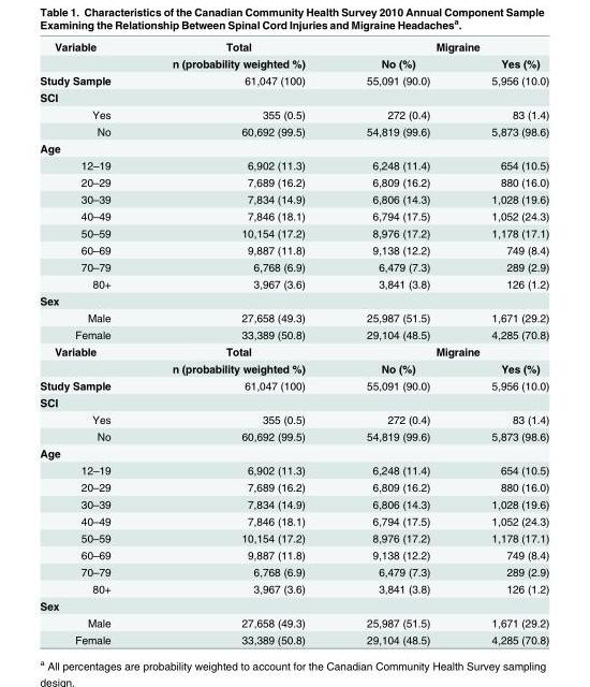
<table><tbody><tr><td rowspan="2">Variable</td><td>Total</td><td colspan="2">Migraine</td></tr><tr><td>n (probability weighted %)</td><td>No (%)</td><td>Yes (%)</td></tr><tr><td>Study Sample</td><td>61,047 (100)</td><td>55,091 (90.0)</td><td>5,956 (10.0)</td></tr><tr><td colspan="4">SCI</td></tr><tr><td>Yes</td><td>355 (0.5)</td><td>272 (0.4)</td><td>83 (1.4)</td></tr><tr><td>No</td><td>60,692 (99.5)</td><td>54,819 (99.6)</td><td>5,873 (98.6)</td></tr><tr><td colspan="4">Age</td></tr><tr><td>12–19</td><td>6,902 (11.3)</td><td>6,248 (11.4)</td><td>654 (10.5)</td></tr><tr><td>20–29</td><td>7,689 (16.2)</td><td>6,809 (16.2)</td><td>880 (16.0)</td></tr><tr><td>30–39</td><td>7,834 (14.9)</td><td>6,806 (14.3)</td><td>1,028 (19.6)</td></tr><tr><td>40–49</td><td>7,846 (18.1)</td><td>6,794 (17.5)</td><td>1,052 (24.3)</td></tr><tr><td>50–59</td><td>10,154 (17.2)</td><td>8,976 (17.2)</td><td>1,178 (17.1)</td></tr><tr><td>60–69</td><td>9,887 (11.8)</td><td>9,138 (12.2)</td><td>749 (8.4)</td></tr><tr><td>70–79</td><td>6,768 (6.9)</td><td>6,479 (7.3)</td><td>289 (2.9)</td></tr><tr><td>80+</td><td>3,967 (3.6)</td><td>3,841 (3.8)</td><td>126 (1.2)</td></tr><tr><td colspan="4">Sex</td></tr><tr><td>Male</td><td>27,658 (49.3)</td><td>25,987 (51.5)</td><td>1,671 (29.2)</td></tr><tr><td>Female</td><td>33,389 (50.8)</td><td>29,104 (48.5)</td><td>4,285 (70.8)</td></tr><tr><td rowspan="2">Variable</td><td>Total</td><td colspan="2">Migraine</td></tr><tr><td>n (probability weighted %)</td><td>No (%)</td><td>Yes (%)</td></tr><tr><td>Study Sample</td><td>61,047 (100)</td><td>55,091 (90.0)</td><td>5,956 (10.0)</td></tr><tr><td colspan="4">SCI</td></tr><tr><td>Yes</td><td>355 (0.5)</td><td>272 (0.4)</td><td>83 (1.4)</td></tr><tr><td>No</td><td>60,692 (99.5)</td><td>54,819 (99.6)</td><td>5,873 (98.6)</td></tr><tr><td colspan="4">Age</td></tr><tr><td>12–19</td><td>6,902 (11.3)</td><td>6,248 (11.4)</td><td>654 (10.5)</td></tr><tr><td>20–29</td><td>7,689 (16.2)</td><td>6,809 (16.2)</td><td>880 (16.0)</td></tr><tr><td>30–39</td><td>7,834 (14.9)</td><td>6,806 (14.3)</td><td>1,028 (19.6)</td></tr><tr><td>40–49</td><td>7,846 (18.1)</td><td>6,794 (17.5)</td><td>1,052 (24.3)</td></tr><tr><td>50–59</td><td>10,154 (17.2)</td><td>8,976 (17.2)</td><td>1,178 (17.1)</td></tr><tr><td>60–69</td><td>9,887 (11.8)</td><td>9,138 (12.2)</td><td>749 (8.4)</td></tr><tr><td>70–79</td><td>6,768 (6.9)</td><td>6,479 (7.3)</td><td>289 (2.9)</td></tr><tr><td>80+</td><td>3,967 (3.6)</td><td>3,841 (3.8)</td><td>126 (1.2)</td></tr><tr><td colspan="4">Sex</td></tr><tr><td>Male</td><td>27,658 (49.3)</td><td>25,987 (51.5)</td><td>1,671 (29.2)</td></tr><tr><td>Female</td><td>33,389 (50.8)</td><td>29,104 (48.5)</td><td>4,285 (70.8)</td></tr></tbody></table>